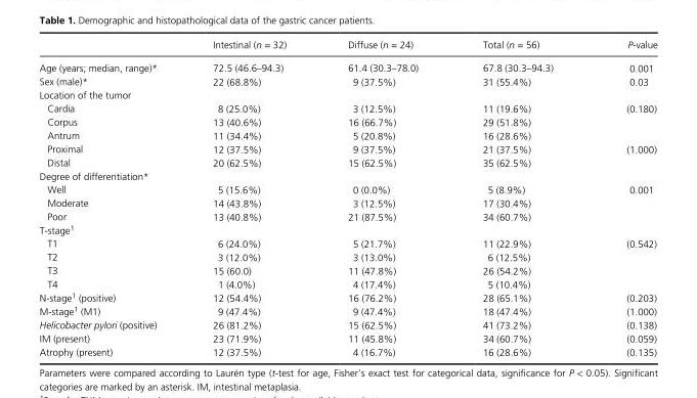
<table><thead><tr><td></td><td>Intestinal (n = 32)</td><td>Diffuse (n = 24)</td><td>Total (n = 56)</td><td>P- value</td></tr></thead><tbody><tr><td>Age (years; median, range)*</td><td>72.5 (46.6–94.3)</td><td>61.4 (30.3–78.0)</td><td>67.8 (30.3–94.3)</td><td>0.001</td></tr><tr><td>Sex (male)*</td><td>22 (68.8%)</td><td>9 (37.5%)</td><td>31 (55.4%)</td><td>0.03</td></tr><tr><td colspan="5">Location of the tumor</td></tr><tr><td>Cardia</td><td>8 (25.0%)</td><td>3 (12.5%)</td><td>11 (19.6%)</td><td rowspan="3">(0.180)</td></tr><tr><td>Corpus</td><td>13 (40.6%)</td><td>16 (66.7%)</td><td>29 (51.8%)</td></tr><tr><td>Antrum</td><td>11 (34.4%)</td><td>5 (20.8%)</td><td>16 (28.6%)</td></tr><tr><td>Proximal</td><td>12 (37.5%)</td><td>9 (37.5%)</td><td>21 (37.5%)</td><td rowspan="2">(1.000)</td></tr><tr><td>Distal</td><td>20 (62.5%)</td><td>15 (62.5%)</td><td>35 (62.5%)</td></tr><tr><td colspan="5">Degree of differentiation*</td></tr><tr><td>Well</td><td>5 (15.6%)</td><td>0 (0.0%)</td><td>5 (8.9%)</td><td rowspan="3">0.001</td></tr><tr><td>Moderate</td><td>14 (43.8%)</td><td>3 (12.5%)</td><td>17 (30.4%)</td></tr><tr><td>Poor</td><td>13 (40.8%)</td><td>21 (87.5%)</td><td>34 (60.7%)</td></tr><tr><td colspan="5">T- stage1</td></tr><tr><td>T1</td><td>6 (24.0%)</td><td>5 (21.7%)</td><td>11 (22.9%)</td><td rowspan="4">(0.542)</td></tr><tr><td>T2</td><td>3 (12.0%)</td><td>3 (13.0%)</td><td>6 (12.5%)</td></tr><tr><td>T3</td><td>15 (60.0)</td><td>11 (47.8%)</td><td>26 (54.2%)</td></tr><tr><td>T4</td><td>1 (4.0%)</td><td>4 (17.4%)</td><td>5 (10.4%)</td></tr><tr><td>N- stage1 (positive)</td><td>12 (54.4%)</td><td>16 (76.2%)</td><td>28 (65.1%)</td><td>(0.203)</td></tr><tr><td>M- stage1 (M1)</td><td>9 (47.4%)</td><td>9 (47.4%)</td><td>18 (47.4%)</td><td>(1.000)</td></tr><tr><td>Helicobacter pylori (positive)</td><td>26 (81.2%)</td><td>15 (62.5%)</td><td>41 (73.2%)</td><td>(0.138)</td></tr><tr><td>IM (present)</td><td>23 (71.9%)</td><td>11 (45.8%)</td><td>34 (60.7%)</td><td>(0.059)</td></tr><tr><td>Atrophy (present)</td><td>12 (37.5%)</td><td>4 (16.7%)</td><td>16 (28.6%)</td><td>(0.135)</td></tr></tbody></table>